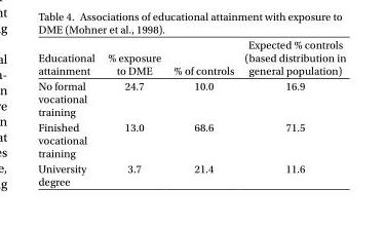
<table><thead><tr><td>Educational attainment</td><td>% exposure to DME</td><td>% of controls</td><td>Expected % controls (based distribution in general population)</td></tr></thead><tbody><tr><td>No formal vocational training</td><td>24.7</td><td>10.0</td><td>16.9</td></tr><tr><td>Finished vocational training</td><td>13.0</td><td>68.6</td><td>71.5</td></tr><tr><td>University degree</td><td>3.7</td><td>21.4</td><td>11.6</td></tr></tbody></table>